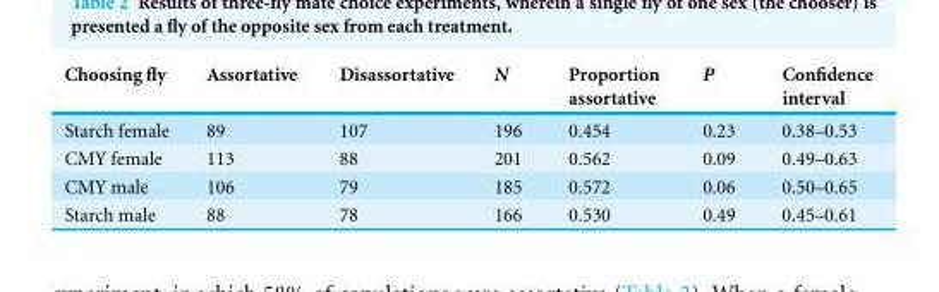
<table><thead><tr><td>Choosing fly</td><td>Assortative</td><td>Disassortative</td><td>N</td><td>Proportion assortative</td><td>P</td><td>Confidence interval</td></tr></thead><tbody><tr><td>Starch female</td><td>89</td><td>107</td><td>196</td><td>0.454</td><td>0.23</td><td>0.38–0.53</td></tr><tr><td>CMY female</td><td>113</td><td>88</td><td>201</td><td>0.562</td><td>0.09</td><td>0.49–0.63</td></tr><tr><td>CMY male</td><td>106</td><td>79</td><td>185</td><td>0.572</td><td>0.06</td><td>0.50–0.65</td></tr><tr><td>Starch male</td><td>88</td><td>78</td><td>166</td><td>0.530</td><td>0.49</td><td>0.45–0.61</td></tr></tbody></table>